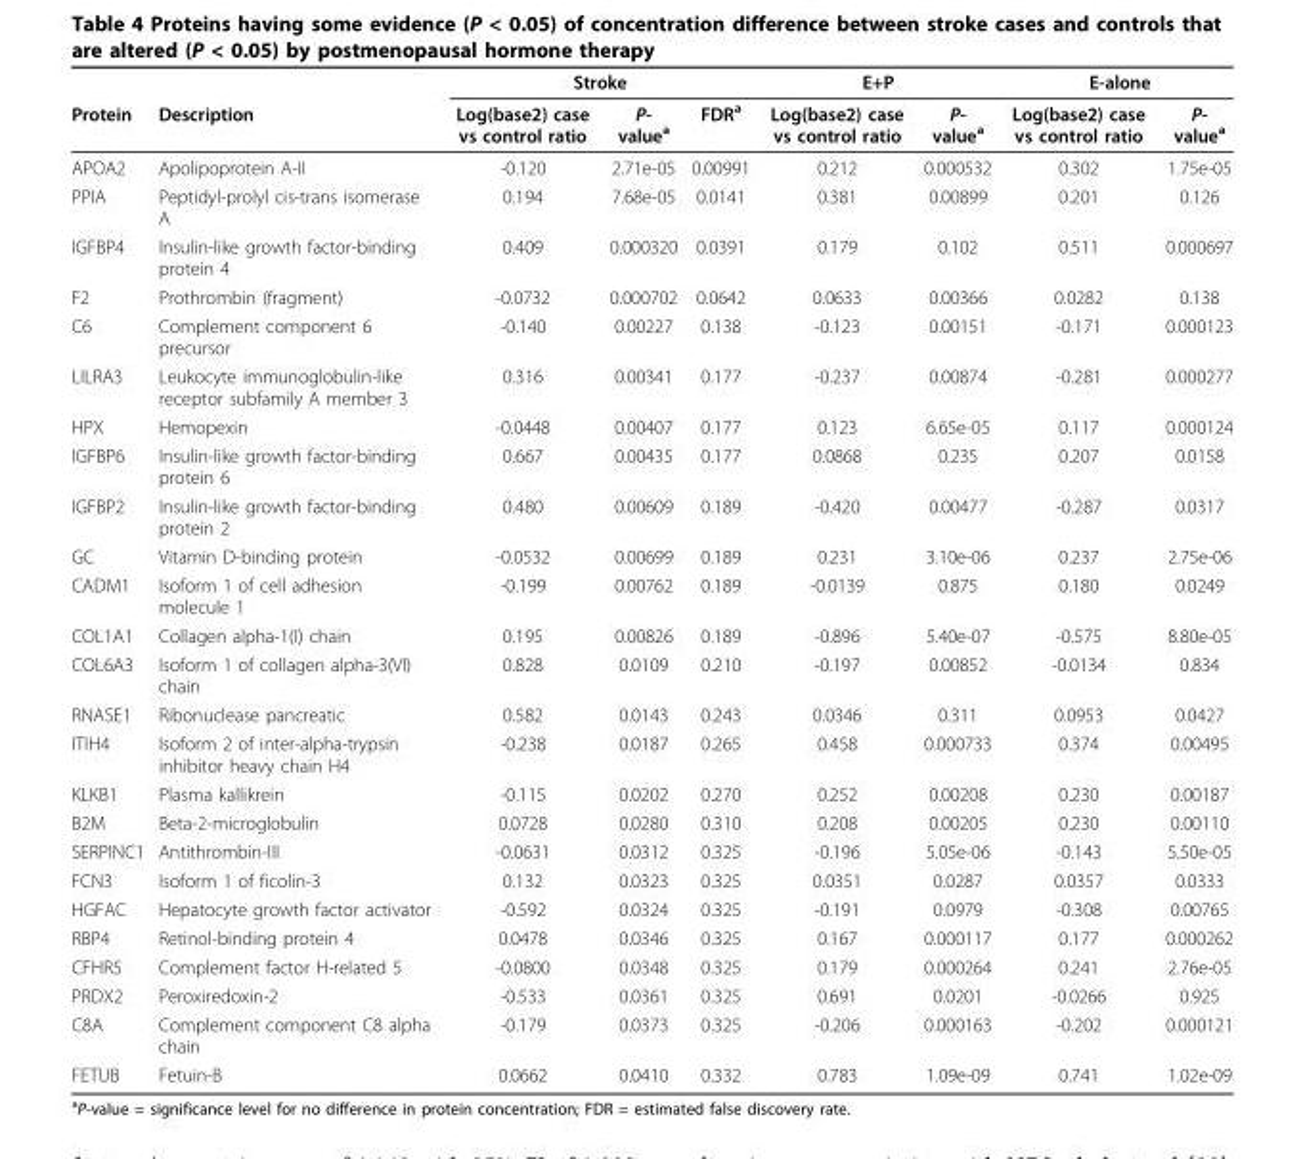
<table><thead><tr><td rowspan="2">Protein</td><td rowspan="2">Description</td><td colspan="3">Stroke</td><td colspan="2">E+P</td><td colspan="2">E-alone</td></tr><tr><td>Log(base2) case vs control ratio</td><td>P- value<sup>a</sup></td><td>FDR<sup>a</sup></td><td>Log(base2) case vs control ratio</td><td>P- value<sup>a</sup></td><td>Log(base2) case vs control ratio</td><td>P- value<sup>a</sup></td></tr></thead><tbody><tr><td>APOA2</td><td>Apolipoprotein A-II</td><td>-0.120</td><td>2.71e-05</td><td>0.00991</td><td>0.212</td><td>0.000532</td><td>0.302</td><td>1.75e-05</td></tr><tr><td>PPIA</td><td>Peptidyl-prolyl cis-trans isomerase A</td><td>0.194</td><td>7.68e-05</td><td>0.0141</td><td>0.381</td><td>0.00899</td><td>0.201</td><td>0.126</td></tr><tr><td>IGFBP4</td><td>Insulin-like growth factor-binding protein 4</td><td>0.409</td><td>0.000320</td><td>0.0391</td><td>0.179</td><td>0.102</td><td>0.511</td><td>0.000697</td></tr><tr><td>F2</td><td>Prothrombin (fragment)</td><td>-0.0732</td><td>0.000702</td><td>0.0642</td><td>0.0633</td><td>0.00366</td><td>0.0282</td><td>0.138</td></tr><tr><td>C6</td><td>Complement component 6 precursor</td><td>-0.140</td><td>0.00227</td><td>0.138</td><td>-0.123</td><td>0.00151</td><td>-0.171</td><td>0.000123</td></tr><tr><td>LILRA3</td><td>Leukocyte immunoglobulin-like receptor subfamily A member 3</td><td>0.316</td><td>0.00341</td><td>0.177</td><td>-0.237</td><td>0.00874</td><td>-0.281</td><td>0.000277</td></tr><tr><td>HPX</td><td>Hemopexin</td><td>-0.0448</td><td>0.00407</td><td>0.177</td><td>0.123</td><td>6.65e-05</td><td>0.117</td><td>0.000124</td></tr><tr><td>IGFBP6</td><td>Insulin-like growth factor-binding protein 6</td><td>0.667</td><td>0.00435</td><td>0.177</td><td>0.0868</td><td>0.235</td><td>0.207</td><td>0.0158</td></tr><tr><td>IGFBP2</td><td>Insulin-like growth factor-binding protein 2</td><td>0.480</td><td>0.00609</td><td>0.189</td><td>-0.420</td><td>0.00477</td><td>-0.287</td><td>0.0317</td></tr><tr><td>GC</td><td>Vitamin D-binding protein</td><td>-0.0532</td><td>0.00699</td><td>0.189</td><td>0.231</td><td>3.10e-06</td><td>0.237</td><td>2.75e-06</td></tr><tr><td>CADM1</td><td>Isoform 1 of cell adhesion molecule 1</td><td>-0.199</td><td>0.00762</td><td>0.189</td><td>-0.0139</td><td>0.875</td><td>0.180</td><td>0.0249</td></tr><tr><td>COL1A1</td><td>Collagen alpha-1(I) chain</td><td>0.195</td><td>0.00826</td><td>0.189</td><td>-0.896</td><td>5.40e-07</td><td>-0.575</td><td>8.80e-05</td></tr><tr><td>COL6A3</td><td>Isoform 1 of collagen alpha-3(VI) chain</td><td>0.828</td><td>0.0109</td><td>0.210</td><td>-0.197</td><td>0.00852</td><td>-0.0134</td><td>0.834</td></tr><tr><td>RNASE1</td><td>Ribonuclease pancreatic</td><td>0.582</td><td>0.0143</td><td>0.243</td><td>0.0346</td><td>0.311</td><td>0.0953</td><td>0.0427</td></tr><tr><td>ITIH4</td><td>Isoform 2 of inter-alpha-trypsin inhibitor heavy chain H4</td><td>-0.238</td><td>0.0187</td><td>0.265</td><td>0.458</td><td>0.000733</td><td>0.374</td><td>0.00495</td></tr><tr><td>KLKB1</td><td>Plasma kallikrein</td><td>-0.115</td><td>0.0202</td><td>0.270</td><td>0.252</td><td>0.00208</td><td>0.230</td><td>0.00187</td></tr><tr><td>B2M</td><td>Beta-2-microglobulin</td><td>0.0728</td><td>0.0280</td><td>0.310</td><td>0.208</td><td>0.00205</td><td>0.230</td><td>0.00110</td></tr><tr><td>SERPINC1</td><td>Antithrombin-III</td><td>-0.0631</td><td>0.0312</td><td>0.325</td><td>-0.196</td><td>5.05e-06</td><td>-0.143</td><td>5.50e-05</td></tr><tr><td>FCN3</td><td>Isoform 1 of ficolin-3</td><td>0.132</td><td>0.0323</td><td>0.325</td><td>0.0351</td><td>0.0287</td><td>0.0357</td><td>0.0333</td></tr><tr><td>HGFAC</td><td>Hepatocyte growth factor activator</td><td>-0.592</td><td>0.0324</td><td>0.325</td><td>-0.191</td><td>0.0979</td><td>-0.308</td><td>0.00765</td></tr><tr><td>RBP4</td><td>Retinol-binding protein 4</td><td>0.0478</td><td>0.0346</td><td>0.325</td><td>0.167</td><td>0.000117</td><td>0.177</td><td>0.000262</td></tr><tr><td>CFHR5</td><td>Complement factor H-related 5</td><td>-0.0800</td><td>0.0348</td><td>0.325</td><td>0.179</td><td>0.000264</td><td>0.241</td><td>2.76e-05</td></tr><tr><td>PRDX2</td><td>Peroxiredoxin-2</td><td>-0.533</td><td>0.0361</td><td>0.325</td><td>0.691</td><td>0.0201</td><td>-0.0266</td><td>0.925</td></tr><tr><td>C8A</td><td>Complement component C8 alpha chain</td><td>-0.179</td><td>0.0373</td><td>0.325</td><td>-0.206</td><td>0.000163</td><td>-0.202</td><td>0.000121</td></tr><tr><td>FETUB</td><td>Fetuin-B</td><td>0.0662</td><td>0.0410</td><td>0.332</td><td>0.783</td><td>1.09e-09</td><td>0.741</td><td>1.02e-09</td></tr></tbody></table>